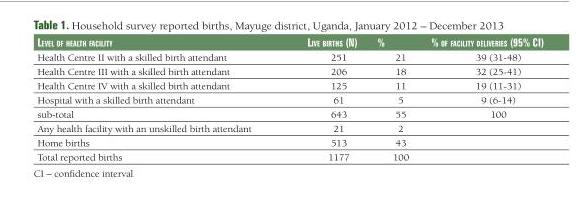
<table><thead><tr><td>level of health facility</td><td>live Births (N)</td><td>%</td><td>% of facility Deliveries (95% ci)</td></tr></thead><tbody><tr><td>Health Centre II with a skilled birth attendant</td><td>251</td><td>21</td><td>39 (31-48)</td></tr><tr><td>Health Centre III with a skilled birth attendant</td><td>206</td><td>18</td><td>32 (25-41)</td></tr><tr><td>Health Centre IV with a skilled birth attendant</td><td>125</td><td>11</td><td>19 (11-31)</td></tr><tr><td>Hospital with a skilled birth attendant</td><td>61</td><td>5</td><td>9 (6-14)</td></tr><tr><td>sub-total</td><td>643</td><td>55</td><td>100</td></tr><tr><td>Any health facility with an unskilled birth attendant</td><td>21</td><td>2</td><td></td></tr><tr><td>Home births</td><td>513</td><td>43</td><td></td></tr><tr><td>Total reported births</td><td>1177</td><td>100</td><td></td></tr></tbody></table>